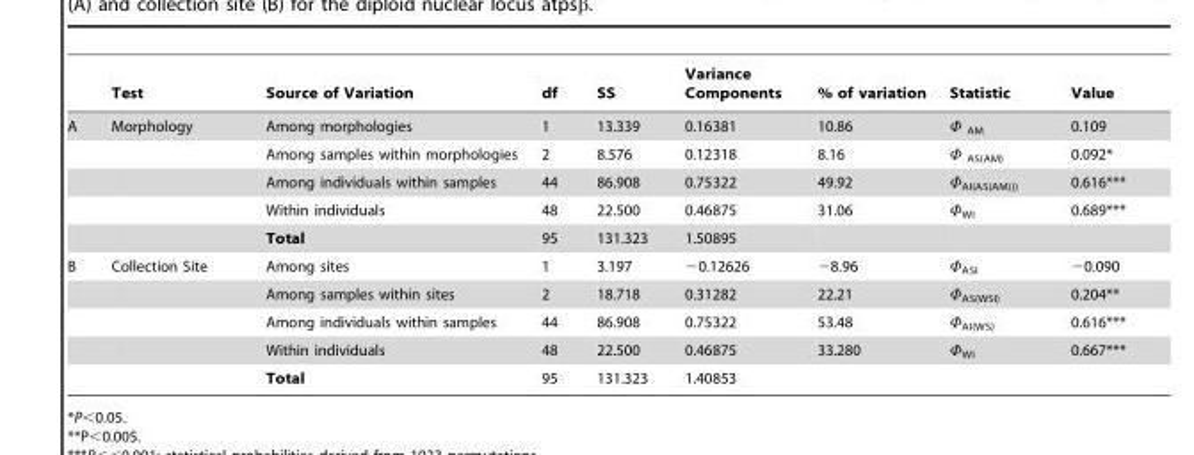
<table><thead><tr><td></td><td>Test</td><td>Source of Variation</td><td>df</td><td>SS</td><td>Variance Components</td><td>% of variation</td><td>Statistic</td><td>Value</td></tr></thead><tbody><tr><td rowspan="5">A</td><td>Morphology</td><td>Among morphologies</td><td>1</td><td>13.339</td><td>0.16381</td><td>10.86</td><td>Φ <sub>AM</sub></td><td>0.109</td></tr><tr><td></td><td>Among samples within morphologies</td><td>2</td><td>8.576</td><td>0.12318</td><td>8.16</td><td>Φ <sub>AS(AM)</sub></td><td>0.092*</td></tr><tr><td></td><td>Among individuals within samples</td><td>44</td><td>86.908</td><td>0.75322</td><td>49.92</td><td>Φ<sub>AI(AS(AM)))</sub></td><td>0.616***</td></tr><tr><td></td><td>Within individuals</td><td>48</td><td>22.500</td><td>0.46875</td><td>31.06</td><td>Φ<sub>WI</sub></td><td>0.689***</td></tr><tr><td></td><td>Total</td><td>95</td><td>131.323</td><td>1.50895</td><td></td><td></td><td></td></tr><tr><td rowspan="5">B</td><td>Collection Site</td><td>Among sites</td><td>1</td><td>3.197</td><td>−0.12626</td><td>−8.96</td><td>Φ<sub>ASI</sub></td><td>−0.090</td></tr><tr><td></td><td>Among samples within sites</td><td>2</td><td>18.718</td><td>0.31282</td><td>22.21</td><td>Φ<sub>AS(WSI)</sub></td><td>0.204**</td></tr><tr><td></td><td>Among individuals within samples</td><td>44</td><td>86.908</td><td>0.75322</td><td>53.48</td><td>Φ<sub>AI(WS)</sub></td><td>0.616***</td></tr><tr><td></td><td>Within individuals</td><td>48</td><td>22.500</td><td>0.46875</td><td>33.280</td><td>Φ<sub>WI</sub></td><td>0.667***</td></tr><tr><td></td><td>Total</td><td>95</td><td>131.323</td><td>1.40853</td><td></td><td></td><td></td></tr></tbody></table>